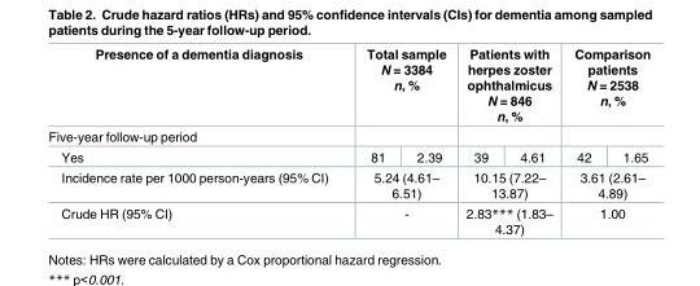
<table><thead><tr><td rowspan="3">Presence of a dementia diagnosis Five-year follow-up period Yes</td><td rowspan="2" colspan="2">Total sample N = 3384 n, %</td><td rowspan="2" colspan="2">Patients with herpes zoster ophthalmicus N = 846 n, %</td><td rowspan="2" colspan="2">Comparison patients N = 2538 n, %</td></tr><tr></tr><tr><td>81</td><td>2.39</td><td>39</td><td>4.61</td><td>42</td><td>1.65</td></tr></thead><tbody><tr><td>Incidence rate per 1000 person-years (95% CI)</td><td colspan="2">5.24 (4.61– 6.51)</td><td colspan="2">10.15 (7.22– 13.87)</td><td colspan="2">3.61 (2.61– 4.89)</td></tr><tr><td>Crude HR (95% CI)</td><td colspan="2">-</td><td colspan="2">2.83*** (1.83– 4.37)</td><td colspan="2">1.00</td></tr></tbody></table>